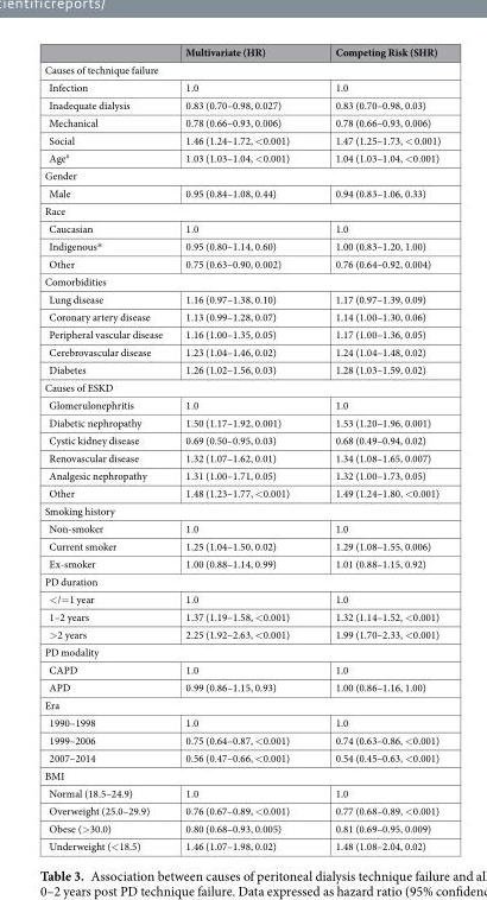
<table><thead><tr><td></td><td>Multivariate (HR)</td><td>Competing Risk (SHR)</td></tr></thead><tbody><tr><td colspan="3">Causes of technique failure</td></tr><tr><td>Infection</td><td>1.0</td><td>1.0</td></tr><tr><td>Inadequate dialysis</td><td>0.83 (0.70–0.98, 0.027)</td><td>0.83 (0.70–0.98, 0.03)</td></tr><tr><td>Mechanical</td><td>0.78 (0.66–0.93, 0.006)</td><td>0.78 (0.66–0.93, 0.006)</td></tr><tr><td>Social</td><td>1.46 (1.24–1.72, &lt;0.001)</td><td>1.47 (1.25–1.73, &lt; 0.001)</td></tr><tr><td>Age<sup>#</sup></td><td>1.03 (1.03–1.04, &lt;0.001)</td><td>1.04 (1.03–1.04, &lt;0.001)</td></tr><tr><td colspan="3">Gender</td></tr><tr><td>Male</td><td>0.95 (0.84–1.08, 0.44)</td><td>0.94 (0.83–1.06, 0.33)</td></tr><tr><td colspan="3">Race</td></tr><tr><td>Caucasian</td><td>1.0</td><td>1.0</td></tr><tr><td>Indigenous*</td><td>0.95 (0.80–1.14, 0.60)</td><td>1.00 (0.83–1.20, 1.00)</td></tr><tr><td>Other</td><td>0.75 (0.63–0.90, 0.002)</td><td>0.76 (0.64–0.92, 0.004)</td></tr><tr><td colspan="3">Comorbidities</td></tr><tr><td>Lung disease</td><td>1.16 (0.97–1.38, 0.10)</td><td>1.17 (0.97–1.39, 0.09)</td></tr><tr><td>Coronary artery disease</td><td>1.13 (0.99–1.28, 0.07)</td><td>1.14 (1.00–1.30, 0.06)</td></tr><tr><td>Peripheral vascular disease</td><td>1.16 (1.00–1.35, 0.05)</td><td>1.17 (1.00–1.36, 0.05)</td></tr><tr><td>Cerebrovascular disease</td><td>1.23 (1.04–1.46, 0.02)</td><td>1.24 (1.04–1.48, 0.02)</td></tr><tr><td>Diabetes</td><td>1.26 (1.02–1.56, 0.03)</td><td>1.28 (1.03–1.59, 0.02)</td></tr><tr><td colspan="3">Causes of ESKD</td></tr><tr><td>Glomerulonephritis</td><td>1.0</td><td>1.0</td></tr><tr><td>Diabetic nephropathy</td><td>1.50 (1.17–1.92, 0.001)</td><td>1.53 (1.20–1.96, 0.001)</td></tr><tr><td>Cystic kidney disease</td><td>0.69 (0.50–0.95, 0.03)</td><td>0.68 (0.49–0.94, 0.02)</td></tr><tr><td>Renovascular disease</td><td>1.32 (1.07–1.62, 0.01)</td><td>1.34 (1.08–1.65, 0.007)</td></tr><tr><td>Analgesic nephropathy</td><td>1.31 (1.00–1.71, 0.05)</td><td>1.32 (1.00–1.73, 0.05)</td></tr><tr><td>Other</td><td>1.48 (1.23–1.77, &lt;0.001)</td><td>1.49 (1.24–1.80, &lt;0.001)</td></tr><tr><td colspan="3">Smoking history</td></tr><tr><td>Non-smoker</td><td>1.0</td><td>1.0</td></tr><tr><td>Current smoker</td><td>1.25 (1.04–1.50, 0.02)</td><td>1.29 (1.08–1.55, 0.006)</td></tr><tr><td>Ex-smoker</td><td>1.00 (0.88–1.14, 0.99)</td><td>1.01 (0.88–1.15, 0.92)</td></tr><tr><td colspan="3">PD duration</td></tr><tr><td>&lt;/=1 year</td><td>1.0</td><td>1.0</td></tr><tr><td>1–2 years</td><td>1.37 (1.19–1.58, &lt;0.001)</td><td>1.32 (1.14–1.52, &lt;0.001)</td></tr><tr><td>&gt;2 years</td><td>2.25 (1.92–2.63, &lt;0.001)</td><td>1.99 (1.70–2.33, &lt;0.001)</td></tr><tr><td colspan="3">PD modality</td></tr><tr><td>CAPD</td><td>1.0</td><td>1.0</td></tr><tr><td>APD</td><td>0.99 (0.86–1.15, 0.93)</td><td>1.00 (0.86–1.16, 1.00)</td></tr><tr><td colspan="3">Era</td></tr><tr><td>1990–1998</td><td>1.0</td><td>1.0</td></tr><tr><td>1999–2006</td><td>0.75 (0.64–0.87, &lt;0.001)</td><td>0.74 (0.63–0.86, &lt;0.001)</td></tr><tr><td>2007–2014</td><td>0.56 (0.47–0.66, &lt;0.001)</td><td>0.54 (0.45–0.63, &lt;0.001)</td></tr><tr><td colspan="3">BMI</td></tr><tr><td>Normal (18.5–24.9)</td><td>1.0</td><td>1.0</td></tr><tr><td>Overweight (25.0–29.9)</td><td>0.76 (0.67–0.89, &lt;0.001)</td><td>0.77 (0.68–0.89, &lt;0.001)</td></tr><tr><td>Obese (&gt;30.0)</td><td>0.80 (0.68–0.93, 0.005)</td><td>0.81 (0.69–0.95, 0.009)</td></tr><tr><td>Underweight (&lt;18.5)</td><td>1.46 (1.07–1.98, 0.02)</td><td>1.48 (1.08–2.04, 0.02)</td></tr></tbody></table>